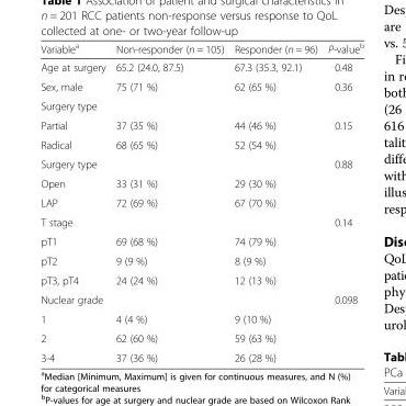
<table><thead><tr><td>Variable<sup>a</sup></td><td>Non-responder (n = 105)</td><td>Responder (n = 96)</td><td>P-value<sup>b</sup></td></tr></thead><tbody><tr><td>Age at surgery</td><td>65.2 (24.0, 87.5)</td><td>67.3 (35.3, 92.1)</td><td>0.48</td></tr><tr><td>Sex, male</td><td>75 (71 %)</td><td>62 (65 %)</td><td>0.36</td></tr><tr><td colspan="4">Surgery type</td></tr><tr><td>Partial</td><td>37 (35 %)</td><td>44 (46 %)</td><td>0.15</td></tr><tr><td>Radical</td><td>68 (65 %)</td><td>52 (54 %)</td><td></td></tr><tr><td>Surgery type</td><td></td><td></td><td>0.88</td></tr><tr><td>Open</td><td>33 (31 %)</td><td>29 (30 %)</td><td></td></tr><tr><td>LAP</td><td>72 (69 %)</td><td>67 (70 %)</td><td></td></tr><tr><td>T stage</td><td></td><td></td><td>0.14</td></tr><tr><td>pT1</td><td>69 (68 %)</td><td>74 (79 %)</td><td></td></tr><tr><td>pT2</td><td>9 (9 %)</td><td>8 (9 %)</td><td></td></tr><tr><td>pT3, pT4</td><td>24 (24 %)</td><td>12 (13 %)</td><td></td></tr><tr><td>Nuclear grade</td><td></td><td></td><td>0.098</td></tr><tr><td>1</td><td>4 (4 %)</td><td>9 (10 %)</td><td></td></tr><tr><td>2</td><td>62 (60 %)</td><td>59 (63 %)</td><td></td></tr><tr><td>3-4</td><td>37 (36 %)</td><td>26 (28 %)</td><td></td></tr></tbody></table>